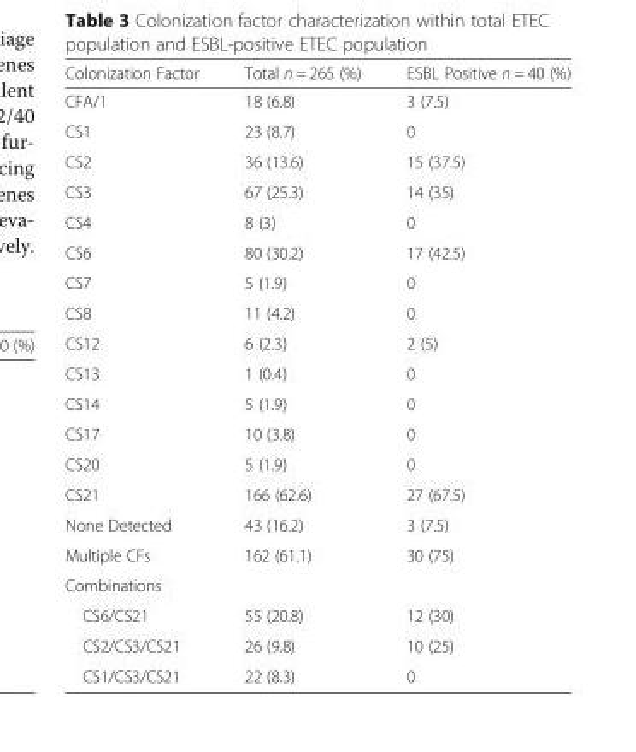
<table><thead><tr><td>Colonization Factor</td><td>Total n = 265 (%)</td><td>ESBL Positive n = 40 (%)</td></tr></thead><tbody><tr><td>CFA/1</td><td>18 (6.8)</td><td>3 (7.5)</td></tr><tr><td>CS1</td><td>23 (8.7)</td><td>0</td></tr><tr><td>CS2</td><td>36 (13.6)</td><td>15 (37.5)</td></tr><tr><td>CS3</td><td>67 (25.3)</td><td>14 (35)</td></tr><tr><td>CS4</td><td>8 (3)</td><td>0</td></tr><tr><td>CS6</td><td>80 (30.2)</td><td>17 (42.5)</td></tr><tr><td>CS7</td><td>5 (1.9)</td><td>0</td></tr><tr><td>CS8</td><td>11 (4.2)</td><td>0</td></tr><tr><td>CS12</td><td>6 (2.3)</td><td>2 (5)</td></tr><tr><td>CS13</td><td>1 (0.4)</td><td>0</td></tr><tr><td>CS14</td><td>5 (1.9)</td><td>0</td></tr><tr><td>CS17</td><td>10 (3.8)</td><td>0</td></tr><tr><td>CS20</td><td>5 (1.9)</td><td>0</td></tr><tr><td>CS21</td><td>166 (62.6)</td><td>27 (67.5)</td></tr><tr><td>None Detected</td><td>43 (16.2)</td><td>3 (7.5)</td></tr><tr><td>Multiple CFs</td><td>162 (61.1)</td><td>30 (75)</td></tr><tr><td colspan="3">Combinations</td></tr><tr><td>CS6/CS21</td><td>55 (20.8)</td><td>12 (30)</td></tr><tr><td>CS2/CS3/CS21</td><td>26 (9.8)</td><td>10 (25)</td></tr><tr><td>CS1/CS3/CS21</td><td>22 (8.3)</td><td>0</td></tr></tbody></table>